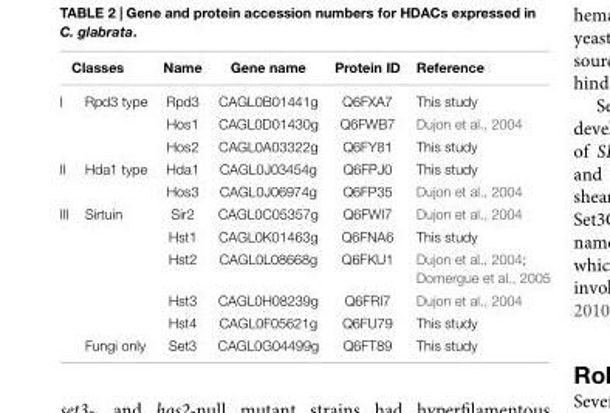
<table><thead><tr><td colspan="2">Classes</td><td rowspan="2">Name Rpd3</td><td rowspan="2">Gene name CAGL0B01441g</td><td rowspan="2">Protein ID Q6FXA7</td><td rowspan="2">Reference This study</td></tr><tr><td>I</td><td>Rpd3 type</td></tr></thead><tbody><tr><td></td><td></td><td>Hos1</td><td>CAGL0D01430g</td><td>Q6FWB7</td><td>Dujon et al., 2004</td></tr><tr><td></td><td></td><td>Hos2</td><td>CAGL0A03322g</td><td>Q6FY81</td><td>This study</td></tr><tr><td rowspan="2">II</td><td>Hda1 type</td><td>Hda1</td><td>CAGL0J03454g</td><td>Q6FPJ0</td><td>This study</td></tr><tr><td></td><td>Hos3</td><td>CAGL0J06974g</td><td>Q6FP35</td><td>Dujon et al., 2004</td></tr><tr><td rowspan="6">III</td><td>Sirtuin</td><td>Sir2</td><td>CAGL0C05357g</td><td>Q6FWI7</td><td>Dujon et al., 2004</td></tr><tr><td></td><td>Hst1</td><td>CAGL0K01463g</td><td>Q6FNA6</td><td>This study</td></tr><tr><td></td><td>Hst2</td><td>CAGL0L08668g</td><td>Q6FKU1</td><td>Dujon et al., 2004; Domergue et al., 2005</td></tr><tr><td></td><td>Hst3</td><td>CAGL0H08239g</td><td>Q6FRI7</td><td>Dujon et al., 2004</td></tr><tr><td></td><td>Hst4</td><td>CAGL0F05621g</td><td>Q6FU79</td><td>This study</td></tr><tr><td>Fungi only</td><td>Set3</td><td>CAGL0G04499g</td><td>Q6FT89</td><td>This study</td></tr></tbody></table>